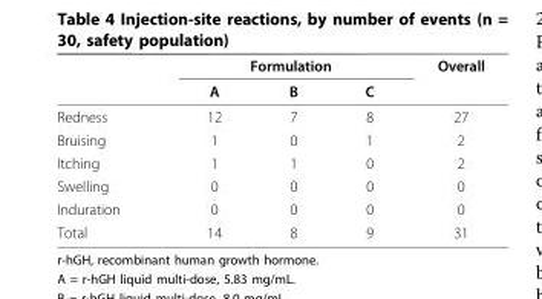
<table><thead><tr><td rowspan="2"></td><td colspan="3">Formulation</td><td rowspan="2">Overall</td></tr><tr><td>A</td><td>B</td><td>C</td></tr></thead><tbody><tr><td>Redness</td><td>12</td><td>7</td><td>8</td><td>27</td></tr><tr><td>Bruising</td><td>1</td><td>0</td><td>1</td><td>2</td></tr><tr><td>Itching</td><td>1</td><td>1</td><td>0</td><td>2</td></tr><tr><td>Swelling</td><td>0</td><td>0</td><td>0</td><td>0</td></tr><tr><td>Induration</td><td>0</td><td>0</td><td>0</td><td>0</td></tr><tr><td>Total</td><td>14</td><td>8</td><td>9</td><td>31</td></tr></tbody></table>